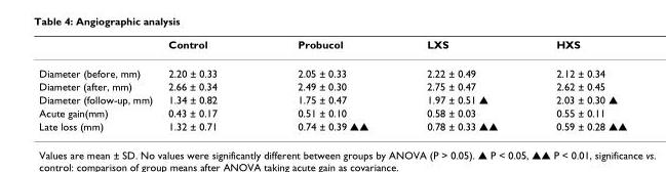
<table><thead><tr><td></td><td>Control</td><td>Probucol</td><td>LXS</td><td>HXS</td></tr></thead><tbody><tr><td>Diameter (before, mm)</td><td>2.20 ± 0.33</td><td>2.05 ± 0.33</td><td>2.22 ± 0.49</td><td>2.12 ± 0.34</td></tr><tr><td>Diameter (after, mm)</td><td>2.66 ± 0.34</td><td>2.49 ± 0.30</td><td>2.75 ± 0.47</td><td>2.62 ± 0.45</td></tr><tr><td>Diameter (follow-up, mm)</td><td>1.34 ± 0.82</td><td>1.75 ± 0.47</td><td>1.97 ± 0.51 ▲</td><td>2.03 ± 0.30 ▲</td></tr><tr><td>Acute gain(mm)</td><td>0.43 ± 0.17</td><td>0.51 ± 0.10</td><td>0.58 ± 0.03</td><td>0.55 ± 0.11</td></tr><tr><td>Late loss (mm)</td><td>1.32 ± 0.71</td><td>0.74 ± 0.39 ▲▲</td><td>0.78 ± 0.33 ▲▲</td><td>0.59 ± 0.28 ▲▲</td></tr></tbody></table>